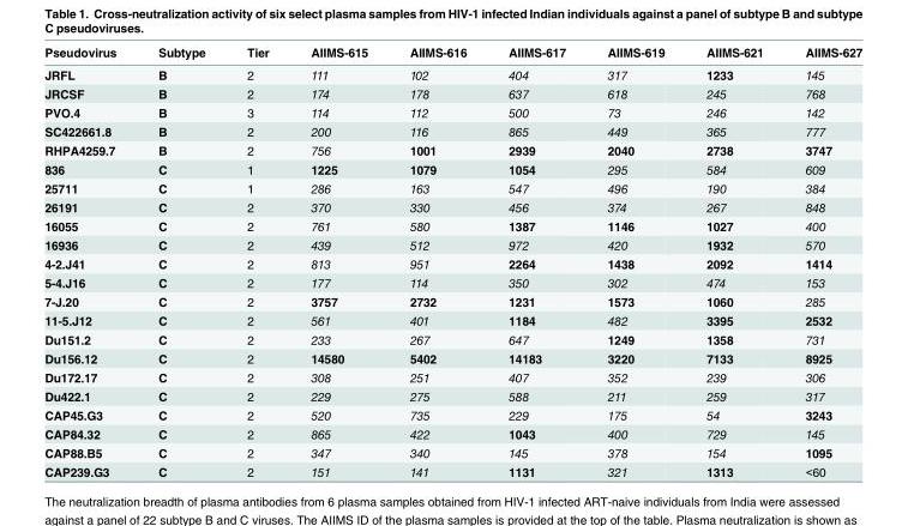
<table><thead><tr><td>Pseudovirus</td><td>Subtype</td><td>Tier</td><td>AIIMS-615</td><td>AIIMS-616</td><td>AIIMS-617</td><td>AIIMS-619</td><td>AIIMS-621</td><td>AIIMS-627</td></tr></thead><tbody><tr><td>JRFL</td><td>B</td><td>2</td><td>111</td><td>102</td><td>404</td><td>317</td><td>1233</td><td>145</td></tr><tr><td>JRCSF</td><td>B</td><td>2</td><td>174</td><td>178</td><td>637</td><td>618</td><td>245</td><td>768</td></tr><tr><td>PVO.4</td><td>B</td><td>3</td><td>114</td><td>112</td><td>500</td><td>73</td><td>246</td><td>142</td></tr><tr><td>SC422661.8</td><td>B</td><td>2</td><td>200</td><td>116</td><td>865</td><td>449</td><td>365</td><td>777</td></tr><tr><td>RHPA4259.7</td><td>B</td><td>2</td><td>756</td><td>1001</td><td>2939</td><td>2040</td><td>2738</td><td>3747</td></tr><tr><td>836</td><td>C</td><td>1</td><td>1225</td><td>1079</td><td>1054</td><td>295</td><td>584</td><td>609</td></tr><tr><td>25711</td><td>C</td><td>1</td><td>286</td><td>163</td><td>547</td><td>496</td><td>190</td><td>384</td></tr><tr><td>26191</td><td>C</td><td>2</td><td>370</td><td>330</td><td>456</td><td>374</td><td>267</td><td>848</td></tr><tr><td>16055</td><td>C</td><td>2</td><td>761</td><td>580</td><td>1387</td><td>1146</td><td>1027</td><td>400</td></tr><tr><td>16936</td><td>C</td><td>2</td><td>439</td><td>512</td><td>972</td><td>420</td><td>1932</td><td>570</td></tr><tr><td>4-2.J41</td><td>C</td><td>2</td><td>813</td><td>951</td><td>2264</td><td>1438</td><td>2092</td><td>1414</td></tr><tr><td>5-4.J16</td><td>C</td><td>2</td><td>177</td><td>114</td><td>350</td><td>302</td><td>474</td><td>153</td></tr><tr><td>7-J.20</td><td>C</td><td>2</td><td>3757</td><td>2732</td><td>1231</td><td>1573</td><td>1060</td><td>285</td></tr><tr><td>11-5.J12</td><td>C</td><td>2</td><td>561</td><td>401</td><td>1184</td><td>482</td><td>3395</td><td>2532</td></tr><tr><td>Du151.2</td><td>C</td><td>2</td><td>233</td><td>267</td><td>647</td><td>1249</td><td>1358</td><td>731</td></tr><tr><td>Du156.12</td><td>C</td><td>2</td><td>14580</td><td>5402</td><td>14183</td><td>3220</td><td>7133</td><td>8925</td></tr><tr><td>Du172.17</td><td>C</td><td>2</td><td>308</td><td>251</td><td>407</td><td>352</td><td>239</td><td>306</td></tr><tr><td>Du422.1</td><td>C</td><td>2</td><td>229</td><td>275</td><td>588</td><td>211</td><td>259</td><td>317</td></tr><tr><td>CAP45.G3</td><td>C</td><td>2</td><td>520</td><td>735</td><td>229</td><td>175</td><td>54</td><td>3243</td></tr><tr><td>CAP84.32</td><td>C</td><td>2</td><td>865</td><td>422</td><td>1043</td><td>400</td><td>729</td><td>145</td></tr><tr><td>CAP88.B5</td><td>C</td><td>2</td><td>347</td><td>340</td><td>145</td><td>378</td><td>154</td><td>1095</td></tr><tr><td>CAP239.G3</td><td>C</td><td>2</td><td>151</td><td>141</td><td>1131</td><td>321</td><td>1313</td><td>&lt;60</td></tr></tbody></table>